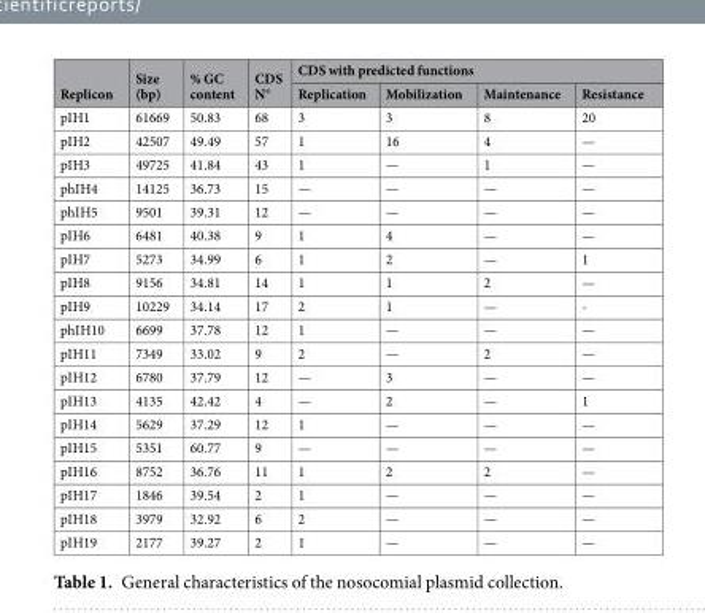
<table><thead><tr><td rowspan="2">Replicon</td><td rowspan="2">Size (bp)</td><td rowspan="2">% GC content</td><td rowspan="2">CDS N°</td><td colspan="4">CDS with predicted functions</td></tr><tr><td>Replication</td><td>Mobilization</td><td>Maintenance</td><td>Resistance</td></tr></thead><tbody><tr><td>pIH1</td><td>61669</td><td>50.83</td><td>68</td><td>3</td><td>3</td><td>8</td><td>20</td></tr><tr><td>pIH2</td><td>42507</td><td>49.49</td><td>57</td><td>1</td><td>16</td><td>4</td><td>—</td></tr><tr><td>pIH3</td><td>49725</td><td>41.84</td><td>43</td><td>1</td><td>—</td><td>1</td><td>—</td></tr><tr><td>phIH4</td><td>14125</td><td>36.73</td><td>15</td><td>—</td><td>—</td><td>—</td><td>—</td></tr><tr><td>phIH5</td><td>9501</td><td>39.31</td><td>12</td><td>—</td><td>—</td><td>—</td><td>—</td></tr><tr><td>pIH6</td><td>6481</td><td>40.38</td><td>9</td><td>1</td><td>4</td><td>—</td><td>—</td></tr><tr><td>pIH7</td><td>5273</td><td>34.99</td><td>6</td><td>1</td><td>2</td><td>—</td><td>1</td></tr><tr><td>pIH8</td><td>9156</td><td>34.81</td><td>14</td><td>1</td><td>1</td><td>2</td><td>—</td></tr><tr><td>pIH9</td><td>10229</td><td>34.14</td><td>17</td><td>2</td><td>1</td><td>—</td><td>-</td></tr><tr><td>phIH10</td><td>6699</td><td>37.78</td><td>12</td><td>1</td><td>—</td><td>—</td><td>—</td></tr><tr><td>pIH11</td><td>7349</td><td>33.02</td><td>9</td><td>2</td><td>—</td><td>2</td><td>—</td></tr><tr><td>pIH12</td><td>6780</td><td>37.79</td><td>12</td><td>—</td><td>3</td><td>—</td><td>—</td></tr><tr><td>pIH13</td><td>4135</td><td>42.42</td><td>4</td><td>—</td><td>2</td><td>—</td><td>1</td></tr><tr><td>pIH14</td><td>5629</td><td>37.29</td><td>12</td><td>1</td><td>—</td><td>—</td><td>—</td></tr><tr><td>pIH15</td><td>5351</td><td>60.77</td><td>9</td><td>—</td><td>—</td><td>—</td><td>—</td></tr><tr><td>pIH16</td><td>8752</td><td>36.76</td><td>11</td><td>1</td><td>2</td><td>2</td><td>—</td></tr><tr><td>pIH17</td><td>1846</td><td>39.54</td><td>2</td><td>1</td><td>—</td><td>—</td><td>—</td></tr><tr><td>pIH18</td><td>3979</td><td>32.92</td><td>6</td><td>2</td><td>—</td><td>—</td><td>—</td></tr><tr><td>pIH19</td><td>2177</td><td>39.27</td><td>2</td><td>1</td><td>—</td><td>—</td><td>—</td></tr></tbody></table>